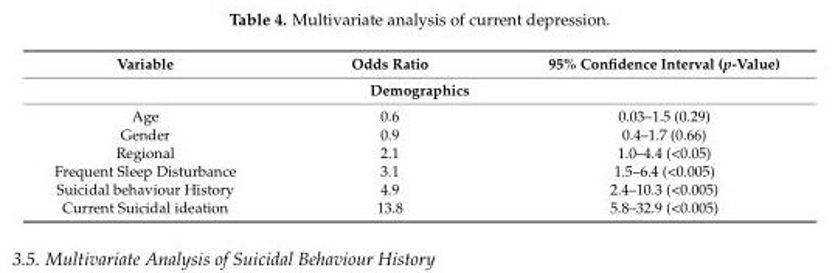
<table><thead><tr><td>Variable</td><td>Odds Ratio</td><td>95% Confidence Interval (p-Value)</td></tr></thead><tbody><tr><td colspan="3">Demographics</td></tr><tr><td>Age</td><td>0.6</td><td>0.03–1.5 (0.29)</td></tr><tr><td>Gender</td><td>0.9</td><td>0.4–1.7 (0.66)</td></tr><tr><td>Regional</td><td>2.1</td><td>1.0–4.4 (&lt;0.05)</td></tr><tr><td>Frequent Sleep Disturbance</td><td>3.1</td><td>1.5–6.4 (&lt;0.005)</td></tr><tr><td>Suicidal behaviour History</td><td>4.9</td><td>2.4–10.3 (&lt;0.005)</td></tr><tr><td>Current Suicidal ideation</td><td>13.8</td><td>5.8–32.9 (&lt;0.005)</td></tr></tbody></table>